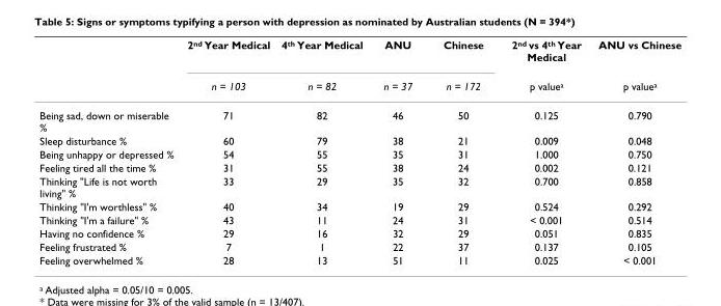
<table><thead><tr><td rowspan="2"></td><td rowspan="2">2<sup>nd</sup> Year Medical n = 103</td><td rowspan="2">4<sup>th</sup> Year Medical n = 82</td><td rowspan="2">ANU n = 37</td><td rowspan="2">Chinese n = 172</td><td rowspan="2">2<sup>nd</sup> vs 4<sup>th</sup> Year Medical p value<sup>a</sup></td><td rowspan="2">ANU vs Chinese p value<sup>a</sup></td></tr><tr></tr></thead><tbody><tr><td>Being sad, down or miserable %</td><td>71</td><td>82</td><td>46</td><td>50</td><td>0.125</td><td>0.790</td></tr><tr><td>Sleep disturbance %</td><td>60</td><td>79</td><td>38</td><td>21</td><td>0.009</td><td>0.048</td></tr><tr><td>Being unhappy or depressed %</td><td>54</td><td>55</td><td>35</td><td>31</td><td>1.000</td><td>0.750</td></tr><tr><td>Feeling tired all the time %</td><td>31</td><td>55</td><td>38</td><td>24</td><td>0.002</td><td>0.121</td></tr><tr><td>Thinking &quot;Life is not worth living&quot; %</td><td>33</td><td>29</td><td>35</td><td>32</td><td>0.700</td><td>0.858</td></tr><tr><td>Thinking &quot;I&#x27;m worthless&quot; %</td><td>40</td><td>34</td><td>19</td><td>29</td><td>0.524</td><td>0.292</td></tr><tr><td>Thinking &quot;I&#x27;m a failure&quot; %</td><td>43</td><td>11</td><td>24</td><td>31</td><td>&lt; 0.001</td><td>0.514</td></tr><tr><td>Having no confidence %</td><td>29</td><td>16</td><td>32</td><td>29</td><td>0.051</td><td>0.835</td></tr><tr><td>Feeling frustrated %</td><td>7</td><td>1</td><td>22</td><td>37</td><td>0.137</td><td>0.105</td></tr><tr><td>Feeling overwhelmed %</td><td>28</td><td>13</td><td>51</td><td>11</td><td>0.025</td><td>&lt; 0.001</td></tr></tbody></table>